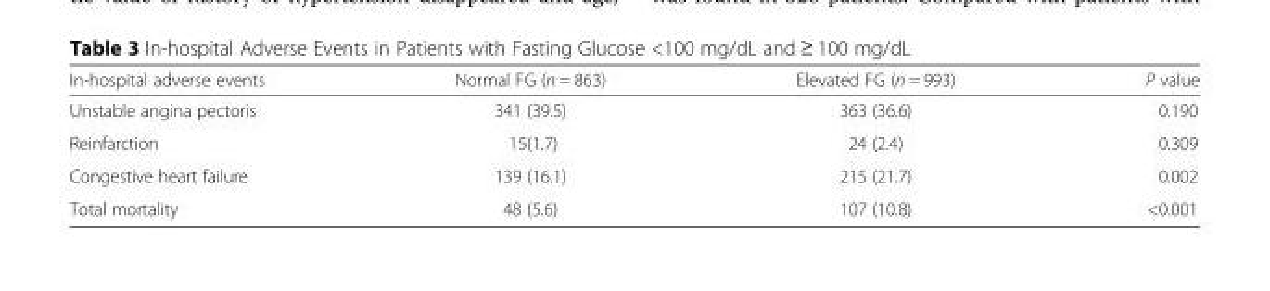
<table><thead><tr><td>In-hospital adverse events</td><td>Normal FG (n = 863)</td><td>Elevated FG (n = 993)</td><td>P value</td></tr></thead><tbody><tr><td>Unstable angina pectoris</td><td>341 (39.5)</td><td>363 (36.6)</td><td>0.190</td></tr><tr><td>Reinfarction</td><td>15(1.7)</td><td>24 (2.4)</td><td>0.309</td></tr><tr><td>Congestive heart failure</td><td>139 (16.1)</td><td>215 (21.7)</td><td>0.002</td></tr><tr><td>Total mortality</td><td>48 (5.6)</td><td>107 (10.8)</td><td>&lt;0.001</td></tr></tbody></table>